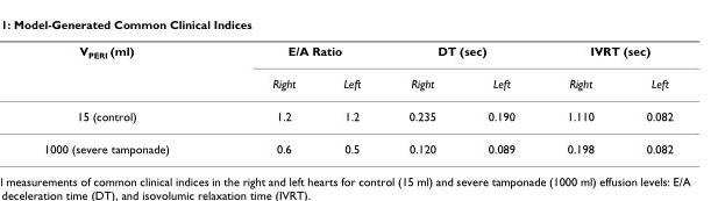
<table><thead><tr><td rowspan="2">V<sub>PERI</sub> (ml)</td><td colspan="2">E/A Ratio</td><td colspan="2">DT (sec)</td><td colspan="2">IVRT (sec)</td></tr><tr><td>Right</td><td>Left</td><td>Right</td><td>Left</td><td>Right</td><td>Left</td></tr></thead><tbody><tr><td>15 (control)</td><td>1.2</td><td>1.2</td><td>0.235</td><td>0.190</td><td>1.110</td><td>0.082</td></tr><tr><td>1000 (severe tamponade)</td><td>0.6</td><td>0.5</td><td>0.120</td><td>0.089</td><td>0.198</td><td>0.082</td></tr></tbody></table>